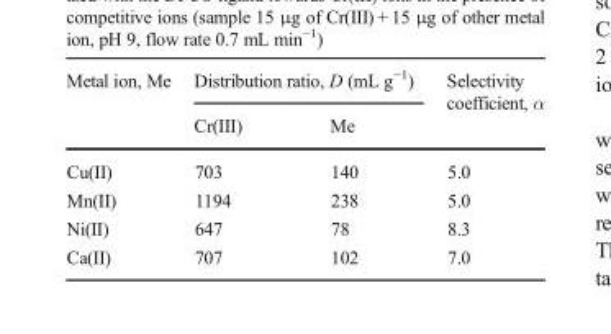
<table><thead><tr><td rowspan="2">Metal ion, Me</td><td colspan="2">Distribution ratio, D (mL g<sup>−1</sup>)</td><td rowspan="2">Selectivity coefficient, α</td></tr><tr><td>Cr(III)</td><td>Me</td></tr></thead><tbody><tr><td>Cu(II)</td><td>703</td><td>140</td><td>5.0</td></tr><tr><td>Mn(II)</td><td>1194</td><td>238</td><td>5.0</td></tr><tr><td>Ni(II)</td><td>647</td><td>78</td><td>8.3</td></tr><tr><td>Ca(II)</td><td>707</td><td>102</td><td>7.0</td></tr></tbody></table>